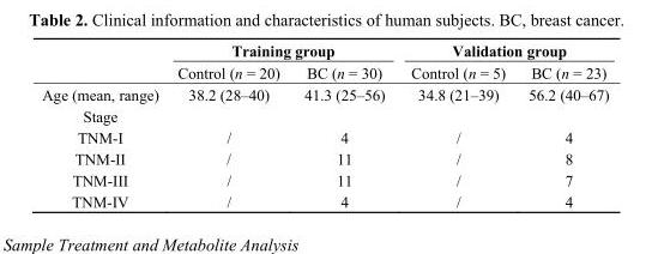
<table><thead><tr><td rowspan="2"></td><td colspan="2">Training group</td><td colspan="2">Validation group</td></tr><tr><td>Control (n = 20)</td><td>BC (n = 30)</td><td>Control (n = 5)</td><td>BC (n = 23)</td></tr></thead><tbody><tr><td>Age (mean, range)</td><td>38.2 (28–40)</td><td>41.3 (25–56)</td><td>34.8 (21–39)</td><td>56.2 (40–67)</td></tr><tr><td colspan="5">Stage</td></tr><tr><td>TNM-I</td><td>/</td><td>4</td><td>/</td><td>4</td></tr><tr><td>TNM-II</td><td>/</td><td>11</td><td>/</td><td>8</td></tr><tr><td>TNM-III</td><td>/</td><td>11</td><td>/</td><td>7</td></tr><tr><td>TNM-IV</td><td>/</td><td>4</td><td>/</td><td>4</td></tr></tbody></table>